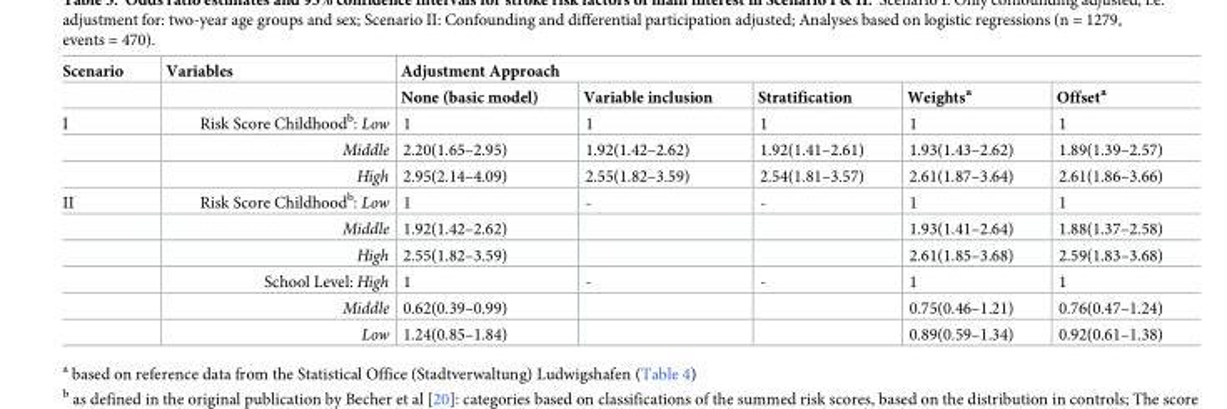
<table><thead><tr><td rowspan="2">Scenario</td><td rowspan="2">Variables</td><td colspan="5">Adjustment Approach</td></tr><tr><td>None (basic model)</td><td>Variable inclusion</td><td>Stratification</td><td>Weights<sup>a</sup></td><td>Offset<sup>a</sup></td></tr></thead><tbody><tr><td rowspan="3">I</td><td>Risk Score Childhood<sup>b</sup>: Low</td><td>1</td><td>1</td><td>1</td><td>1</td><td>1</td></tr><tr><td>Middle</td><td>2.20(1.65–2.95)</td><td>1.92(1.42–2.62)</td><td>1.92(1.41–2.61)</td><td>1.93(1.43–2.62)</td><td>1.89(1.39–2.57)</td></tr><tr><td>High</td><td>2.95(2.14–4.09)</td><td>2.55(1.82–3.59)</td><td>2.54(1.81–3.57)</td><td>2.61(1.87–3.64)</td><td>2.61(1.86–3.66)</td></tr><tr><td rowspan="6">II</td><td>Risk Score Childhood<sup>b</sup>: Low</td><td>1</td><td>-</td><td>-</td><td>1</td><td>1</td></tr><tr><td>Middle</td><td>1.92(1.42–2.62)</td><td></td><td></td><td>1.93(1.41–2.64)</td><td>1.88(1.37–2.58)</td></tr><tr><td>High</td><td>2.55(1.82–3.59)</td><td></td><td></td><td>2.61(1.85–3.68)</td><td>2.59(1.83–3.68)</td></tr><tr><td>School Level: High</td><td>1</td><td>-</td><td>-</td><td>1</td><td>1</td></tr><tr><td>Middle</td><td>0.62(0.39–0.99)</td><td></td><td></td><td>0.75(0.46–1.21)</td><td>0.76(0.47–1.24)</td></tr><tr><td>Low</td><td>1.24(0.85–1.84)</td><td></td><td></td><td>0.89(0.59–1.34)</td><td>0.92(0.61–1.38)</td></tr></tbody></table>